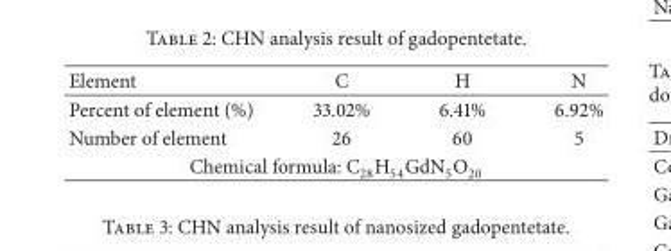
<table><thead><tr><td>Element</td><td>C</td><td>H</td><td>N</td></tr></thead><tbody><tr><td>Percent of element (%)</td><td>33.02%</td><td>6.41%</td><td>6.92%</td></tr><tr><td>Number of element</td><td>26</td><td>60</td><td>5</td></tr><tr><td colspan="4">Chemical formula: C<sub>28</sub>H<sub>54</sub>GdN<sub>5</sub>O<sub>20</sub></td></tr></tbody></table>